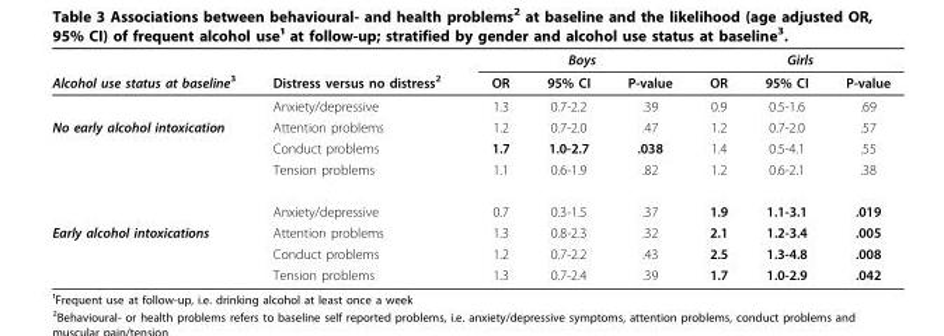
<table><thead><tr><td rowspan="2">Alcohol use status at baseline<sup>3</sup></td><td rowspan="2">Distress versus no distress<sup>2</sup></td><td colspan="3">Boys</td><td colspan="3">Girls</td></tr><tr><td>OR</td><td>95% CI</td><td>P-value</td><td>OR</td><td>95% CI</td><td>P-value</td></tr></thead><tbody><tr><td></td><td>Anxiety/depressive</td><td>1.3</td><td>0.7-2.2</td><td>.39</td><td>0.9</td><td>0.5-1.6</td><td>.69</td></tr><tr><td rowspan="4">No early alcohol intoxication</td><td>Attention problems</td><td>1.2</td><td>0.7-2.0</td><td>.47</td><td>1.2</td><td>0.7-2.0</td><td>.57</td></tr><tr><td>Conduct problems</td><td>1.7</td><td>1.0-2.7</td><td>.038</td><td>1.4</td><td>0.5-4.1</td><td>.55</td></tr><tr><td>Tension problems</td><td>1.1</td><td>0.6-1.9</td><td>.82</td><td>1.2</td><td>0.6-2.1</td><td>.38</td></tr><tr><td>Anxiety/depressive</td><td>0.7</td><td>0.3-1.5</td><td>.37</td><td>1.9</td><td>1.1-3.1</td><td>.019</td></tr><tr><td rowspan="3">Early alcohol intoxications</td><td>Attention problems</td><td>1.3</td><td>0.8-2.3</td><td>.32</td><td>2.1</td><td>1.2-3.4</td><td>.005</td></tr><tr><td>Conduct problems</td><td>1.2</td><td>0.7-2.2</td><td>.43</td><td>2.5</td><td>1.3-4.8</td><td>.008</td></tr><tr><td>Tension problems</td><td>1.3</td><td>0.7-2.4</td><td>.39</td><td>1.7</td><td>1.0-2.9</td><td>.042</td></tr></tbody></table>